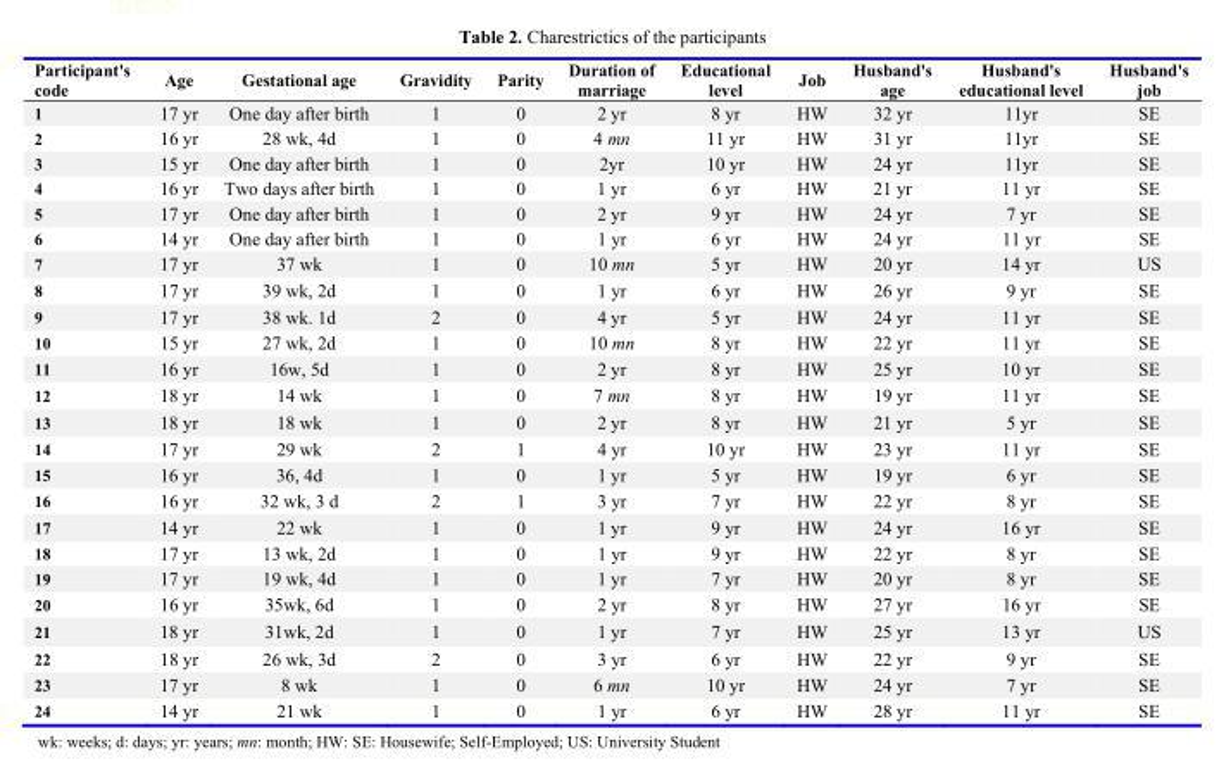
<table><thead><tr><td>Participant&#x27;s code</td><td>Age</td><td>Gestational age</td><td>Gravidity</td><td>Parity</td><td>Duration of marriage</td><td>Educational level</td><td>Job</td><td>Husband&#x27;s age</td><td>Husband&#x27;s educational level</td><td>Husband&#x27;s job</td></tr></thead><tbody><tr><td>1</td><td>17 yr</td><td>One day after birth</td><td>1</td><td>0</td><td>2 yr</td><td>8 yr</td><td>HW</td><td>32 yr</td><td>11yr</td><td>SE</td></tr><tr><td>2</td><td>16 yr</td><td>28 wk, 4d</td><td>1</td><td>0</td><td>4 mn</td><td>11 yr</td><td>HW</td><td>31 yr</td><td>11yr</td><td>SE</td></tr><tr><td>3</td><td>15 yr</td><td>One day after birth</td><td>1</td><td>0</td><td>2yr</td><td>10 yr</td><td>HW</td><td>24 yr</td><td>11yr</td><td>SE</td></tr><tr><td>4</td><td>16 yr</td><td>Two days after birth</td><td>1</td><td>0</td><td>1 yr</td><td>6 yr</td><td>HW</td><td>21 yr</td><td>11 yr</td><td>SE</td></tr><tr><td>5</td><td>17 yr</td><td>One day after birth</td><td>1</td><td>0</td><td>2 yr</td><td>9 yr</td><td>HW</td><td>24 yr</td><td>7 yr</td><td>SE</td></tr><tr><td>6</td><td>14 yr</td><td>One day after birth</td><td>1</td><td>0</td><td>1 yr</td><td>6 yr</td><td>HW</td><td>24 yr</td><td>11 yr</td><td>SE</td></tr><tr><td>7</td><td>17 yr</td><td>37 wk</td><td>1</td><td>0</td><td>10 mn</td><td>5 yr</td><td>HW</td><td>20 yr</td><td>14 yr</td><td>US</td></tr><tr><td>8</td><td>17 yr</td><td>39 wk, 2d</td><td>1</td><td>0</td><td>1 yr</td><td>6 yr</td><td>HW</td><td>26 yr</td><td>9 yr</td><td>SE</td></tr><tr><td>9</td><td>17 yr</td><td>38 wk. 1d</td><td>2</td><td>0</td><td>4 yr</td><td>5 yr</td><td>HW</td><td>24 yr</td><td>11 yr</td><td>SE</td></tr><tr><td>10</td><td>15 yr</td><td>27 wk, 2d</td><td>1</td><td>0</td><td>10 mn</td><td>8 yr</td><td>HW</td><td>22 yr</td><td>11 yr</td><td>SE</td></tr><tr><td>11</td><td>16 yr</td><td>16w, 5d</td><td>1</td><td>0</td><td>2 yr</td><td>8 yr</td><td>HW</td><td>25 yr</td><td>10 yr</td><td>SE</td></tr><tr><td>12</td><td>18 yr</td><td>14 wk</td><td>1</td><td>0</td><td>7 mn</td><td>8 yr</td><td>HW</td><td>19 yr</td><td>11 yr</td><td>SE</td></tr><tr><td>13</td><td>18 yr</td><td>18 wk</td><td>1</td><td>0</td><td>2 yr</td><td>8 yr</td><td>HW</td><td>21 yr</td><td>5 yr</td><td>SE</td></tr><tr><td>14</td><td>17 yr</td><td>29 wk</td><td>2</td><td>1</td><td>4 yr</td><td>10 yr</td><td>HW</td><td>23 yr</td><td>11 yr</td><td>SE</td></tr><tr><td>15</td><td>16 yr</td><td>36, 4d</td><td>1</td><td>0</td><td>1 yr</td><td>5 yr</td><td>HW</td><td>19 yr</td><td>6 yr</td><td>SE</td></tr><tr><td>16</td><td>16 yr</td><td>32 wk, 3 d</td><td>2</td><td>1</td><td>3 yr</td><td>7 yr</td><td>HW</td><td>22 yr</td><td>8 yr</td><td>SE</td></tr><tr><td>17</td><td>14 yr</td><td>22 wk</td><td>1</td><td>0</td><td>1 yr</td><td>9 yr</td><td>HW</td><td>24 yr</td><td>16 yr</td><td>SE</td></tr><tr><td>18</td><td>17 yr</td><td>13 wk, 2d</td><td>1</td><td>0</td><td>1 yr</td><td>9 yr</td><td>HW</td><td>22 yr</td><td>8 yr</td><td>SE</td></tr><tr><td>19</td><td>17 yr</td><td>19 wk, 4d</td><td>1</td><td>0</td><td>1 yr</td><td>7 yr</td><td>HW</td><td>20 yr</td><td>8 yr</td><td>SE</td></tr><tr><td>20</td><td>16 yr</td><td>35wk, 6d</td><td>1</td><td>0</td><td>2 yr</td><td>8 yr</td><td>HW</td><td>27 yr</td><td>16 yr</td><td>SE</td></tr><tr><td>21</td><td>18 yr</td><td>31wk, 2d</td><td>1</td><td>0</td><td>1 yr</td><td>7 yr</td><td>HW</td><td>25 yr</td><td>13 yr</td><td>US</td></tr><tr><td>22</td><td>18 yr</td><td>26 wk, 3d</td><td>2</td><td>0</td><td>3 yr</td><td>6 yr</td><td>HW</td><td>22 yr</td><td>9 yr</td><td>SE</td></tr><tr><td>23</td><td>17 yr</td><td>8 wk</td><td>1</td><td>0</td><td>6 mn</td><td>10 yr</td><td>HW</td><td>24 yr</td><td>7 yr</td><td>SE</td></tr><tr><td>24</td><td>14 yr</td><td>21 wk</td><td>1</td><td>0</td><td>1 yr</td><td>6 yr</td><td>HW</td><td>28 yr</td><td>11 yr</td><td>SE</td></tr></tbody></table>